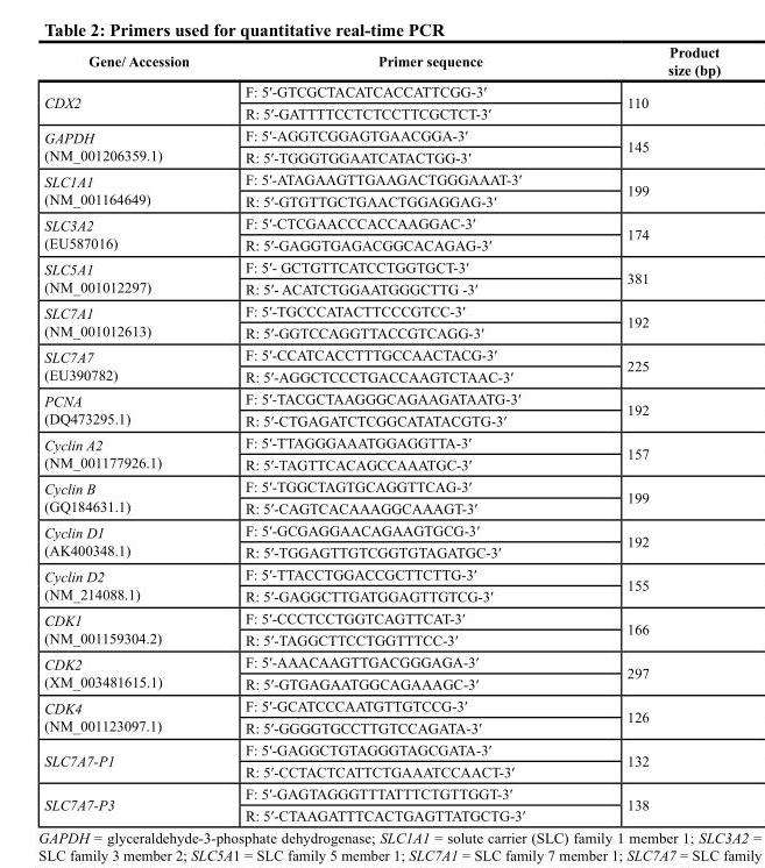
<table><thead><tr><td>Gene/ Accession</td><td>Primer sequence</td><td>Product size (bp)</td></tr></thead><tbody><tr><td rowspan="2">CDX2</td><td>F: 5′-GTCGCTACATCACCATTCGG-3′</td><td rowspan="2">110</td></tr><tr><td>R: 5′-GATTTTCCTCTCCTTCGCTCT-3′</td></tr><tr><td rowspan="2">GAPDH (NM_001206359.1)</td><td>F: 5′-AGGTCGGAGTGAACGGA-3′</td><td rowspan="2">145</td></tr><tr><td>R: 5′-TGGGTGGAATCATACTGG-3′</td></tr><tr><td rowspan="2">SLC1A1 (NM_001164649)</td><td>F: 5′-ATAGAAGTTGAAGACTGGGAAAT-3′</td><td rowspan="2">199</td></tr><tr><td>R: 5′-GTGTTGCTGAACTGGAGGAG-3′</td></tr><tr><td rowspan="2">SLC3A2 (EU587016)</td><td>F: 5′-CTCGAACCCACCAAGGAC-3′</td><td rowspan="2">174</td></tr><tr><td>R: 5′-GAGGTGAGACGGCACAGAG-3′</td></tr><tr><td rowspan="2">SLC5A1 (NM_001012297)</td><td>F: 5′- GCTGTTCATCCTGGTGCT-3′</td><td rowspan="2">381</td></tr><tr><td>R: 5′- ACATCTGGAATGGGCTTG -3′</td></tr><tr><td rowspan="2">SLC7A1 (NM_001012613)</td><td>F: 5′-TGCCCATACTTCCCGTCC-3′</td><td rowspan="2">192</td></tr><tr><td>R: 5′-GGTCCAGGTTACCGTCAGG-3′</td></tr><tr><td rowspan="2">SLC7A7 (EU390782)</td><td>F: 5′-CCATCACCTTTGCCAACTACG-3′</td><td rowspan="2">225</td></tr><tr><td>R: 5′-AGGCTCCCTGACCAAGTCTAAC-3′</td></tr><tr><td rowspan="2">PCNA (DQ473295.1)</td><td>F: 5′-TACGCTAAGGGCAGAAGATAATG-3′</td><td rowspan="2">192</td></tr><tr><td>R: 5′-CTGAGATCTCGGCATATACGTG-3′</td></tr><tr><td rowspan="2">Cyclin A2 (NM_001177926.1)</td><td>F: 5′-TTAGGGAAATGGAGGTTA-3′</td><td rowspan="2">157</td></tr><tr><td>R: 5′-TAGTTCACAGCCAAATGC-3′</td></tr><tr><td rowspan="2">Cyclin B (GQ184631.1)</td><td>F: 5′-TGGCTAGTGCAGGTTCAG-3′</td><td rowspan="2">199</td></tr><tr><td>R: 5′-CAGTCACAAAGGCAAAGT-3′</td></tr><tr><td rowspan="2">Cyclin D1 (AK400348.1)</td><td>F: 5′-GCGAGGAACAGAAGTGCG-3′</td><td rowspan="2">192</td></tr><tr><td>R: 5′-TGGAGTTGTCGGTGTAGATGC-3′</td></tr><tr><td rowspan="2">Cyclin D2 (NM_214088.1)</td><td>F: 5′-TTACCTGGACCGCTTCTTG-3′</td><td rowspan="2">155</td></tr><tr><td>R: 5′-GAGGCTTGATGGAGTTGTCG-3′</td></tr><tr><td rowspan="2">CDK1 (NM_001159304.2)</td><td>F: 5′-CCCTCCTGGTCAGTTCAT-3′</td><td rowspan="2">166</td></tr><tr><td>R: 5′-TAGGCTTCCTGGTTTCC-3′</td></tr><tr><td rowspan="2">CDK2 (XM_003481615.1)</td><td>F: 5′-AAACAAGTTGACGGGAGA-3′</td><td rowspan="2">297</td></tr><tr><td>R: 5′-GTGAGAATGGCAGAAAGC-3′</td></tr><tr><td rowspan="2">CDK4 (NM_001123097.1)</td><td>F: 5′-GCATCCCAATGTTGTCCG-3′</td><td rowspan="2">126</td></tr><tr><td>R: 5′-GGGGTGCCTTGTCCAGATA-3′</td></tr><tr><td rowspan="2">SLC7A7-P1</td><td>F: 5′-GAGGCTGTAGGGTAGCGATA-3′</td><td rowspan="2">132</td></tr><tr><td>R: 5′-CCTACTCATTCTGAAATCCAACT-3′</td></tr><tr><td rowspan="2">SLC7A7-P3</td><td>F: 5′-GAGTAGGGTTTATTTCTGTTGGT-3′</td><td rowspan="2">138</td></tr><tr><td>R: 5′-CTAAGATTTCACTGAGTTATGCTG-3′</td></tr></tbody></table>